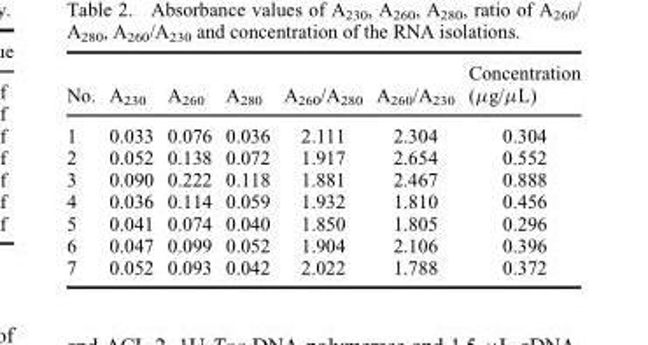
<table><thead><tr><td>No.</td><td>A<sub>230</sub></td><td>A<sub>260</sub></td><td>A<sub>280</sub></td><td>A<sub>260</sub>/A<sub>280</sub></td><td>A<sub>260</sub>/A<sub>230</sub></td><td>Concentration (μg/μL)</td></tr></thead><tbody><tr><td>1</td><td>0.033</td><td>0.076</td><td>0.036</td><td>2.111</td><td>2.304</td><td>0.304</td></tr><tr><td>2</td><td>0.052</td><td>0.138</td><td>0.072</td><td>1.917</td><td>2.654</td><td>0.552</td></tr><tr><td>3</td><td>0.090</td><td>0.222</td><td>0.118</td><td>1.881</td><td>2.467</td><td>0.888</td></tr><tr><td>4</td><td>0.036</td><td>0.114</td><td>0.059</td><td>1.932</td><td>1.810</td><td>0.456</td></tr><tr><td>5</td><td>0.041</td><td>0.074</td><td>0.040</td><td>1.850</td><td>1.805</td><td>0.296</td></tr><tr><td>6</td><td>0.047</td><td>0.099</td><td>0.052</td><td>1.904</td><td>2.106</td><td>0.396</td></tr><tr><td>7</td><td>0.052</td><td>0.093</td><td>0.042</td><td>2.022</td><td>1.788</td><td>0.372</td></tr></tbody></table>